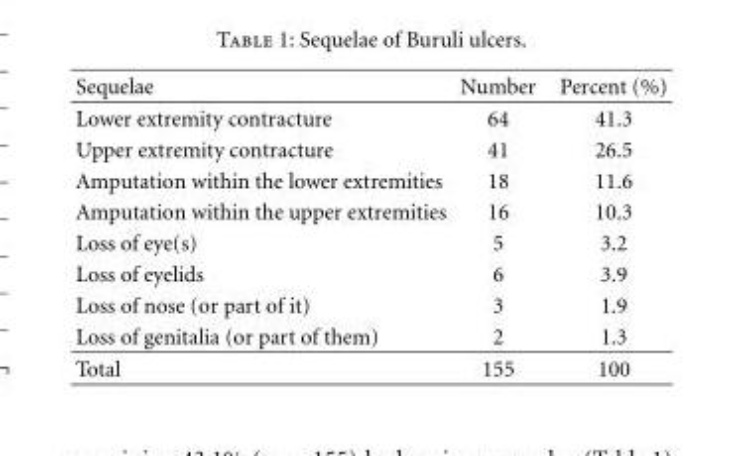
<table><thead><tr><td>Sequelae</td><td>Number</td><td>Percent (%)</td></tr></thead><tbody><tr><td>Lower extremity contracture</td><td>64</td><td>41.3</td></tr><tr><td>Upper extremity contracture</td><td>41</td><td>26.5</td></tr><tr><td>Amputation within the lower extremities</td><td>18</td><td>11.6</td></tr><tr><td>Amputation within the upper extremities</td><td>16</td><td>10.3</td></tr><tr><td>Loss of eye(s)</td><td>5</td><td>3.2</td></tr><tr><td>Loss of eyelids</td><td>6</td><td>3.9</td></tr><tr><td>Loss of nose (or part of it)</td><td>3</td><td>1.9</td></tr><tr><td>Loss of genitalia (or part of them)</td><td>2</td><td>1.3</td></tr><tr><td>Total</td><td>155</td><td>100</td></tr></tbody></table>